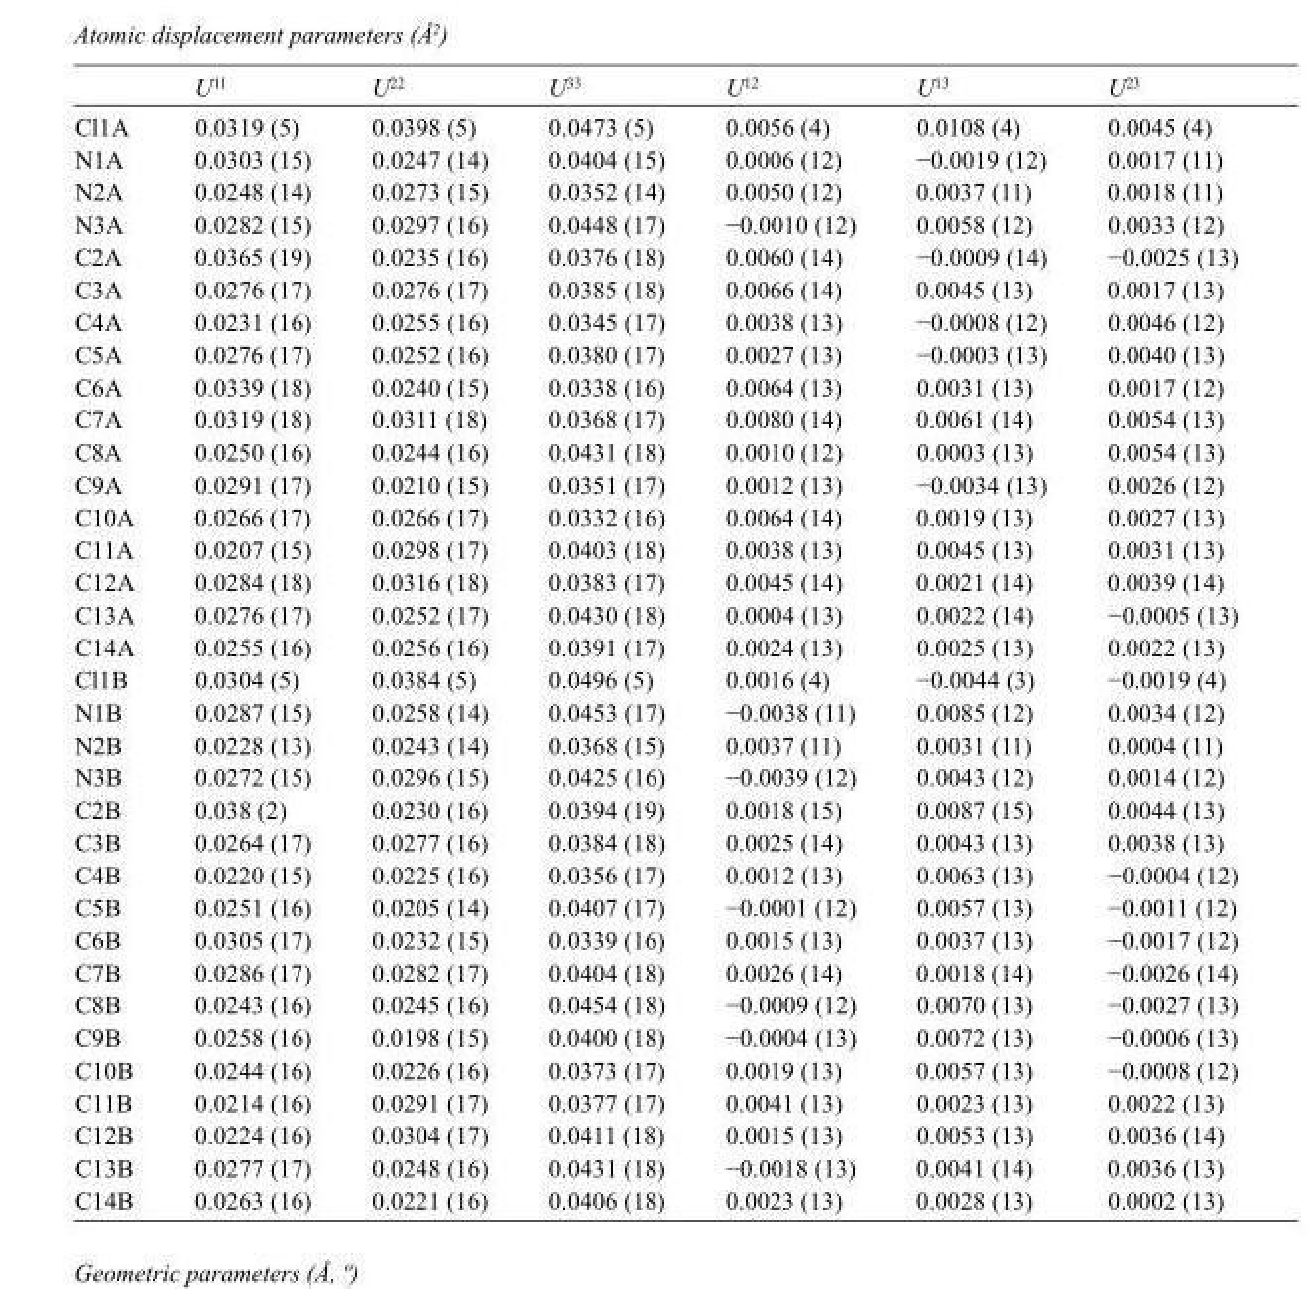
<table><thead><tr><td></td><td>U<sup>11</sup></td><td>U<sup>22</sup></td><td>U<sup>33</sup></td><td>U<sup>12</sup></td><td>U<sup>13</sup></td><td>U<sup>23</sup></td></tr></thead><tbody><tr><td>Cl1A</td><td>0.0319 (5)</td><td>0.0398 (5)</td><td>0.0473 (5)</td><td>0.0056 (4)</td><td>0.0108 (4)</td><td>0.0045 (4)</td></tr><tr><td>N1A</td><td>0.0303 (15)</td><td>0.0247 (14)</td><td>0.0404 (15)</td><td>0.0006 (12)</td><td>−0.0019 (12)</td><td>0.0017 (11)</td></tr><tr><td>N2A</td><td>0.0248 (14)</td><td>0.0273 (15)</td><td>0.0352 (14)</td><td>0.0050 (12)</td><td>0.0037 (11)</td><td>0.0018 (11)</td></tr><tr><td>N3A</td><td>0.0282 (15)</td><td>0.0297 (16)</td><td>0.0448 (17)</td><td>−0.0010 (12)</td><td>0.0058 (12)</td><td>0.0033 (12)</td></tr><tr><td>C2A</td><td>0.0365 (19)</td><td>0.0235 (16)</td><td>0.0376 (18)</td><td>0.0060 (14)</td><td>−0.0009 (14)</td><td>−0.0025 (13)</td></tr><tr><td>C3A</td><td>0.0276 (17)</td><td>0.0276 (17)</td><td>0.0385 (18)</td><td>0.0066 (14)</td><td>0.0045 (13)</td><td>0.0017 (13)</td></tr><tr><td>C4A</td><td>0.0231 (16)</td><td>0.0255 (16)</td><td>0.0345 (17)</td><td>0.0038 (13)</td><td>−0.0008 (12)</td><td>0.0046 (12)</td></tr><tr><td>C5A</td><td>0.0276 (17)</td><td>0.0252 (16)</td><td>0.0380 (17)</td><td>0.0027 (13)</td><td>−0.0003 (13)</td><td>0.0040 (13)</td></tr><tr><td>C6A</td><td>0.0339 (18)</td><td>0.0240 (15)</td><td>0.0338 (16)</td><td>0.0064 (13)</td><td>0.0031 (13)</td><td>0.0017 (12)</td></tr><tr><td>C7A</td><td>0.0319 (18)</td><td>0.0311 (18)</td><td>0.0368 (17)</td><td>0.0080 (14)</td><td>0.0061 (14)</td><td>0.0054 (13)</td></tr><tr><td>C8A</td><td>0.0250 (16)</td><td>0.0244 (16)</td><td>0.0431 (18)</td><td>0.0010 (12)</td><td>0.0003 (13)</td><td>0.0054 (13)</td></tr><tr><td>C9A</td><td>0.0291 (17)</td><td>0.0210 (15)</td><td>0.0351 (17)</td><td>0.0012 (13)</td><td>−0.0034 (13)</td><td>0.0026 (12)</td></tr><tr><td>C10A</td><td>0.0266 (17)</td><td>0.0266 (17)</td><td>0.0332 (16)</td><td>0.0064 (14)</td><td>0.0019 (13)</td><td>0.0027 (13)</td></tr><tr><td>C11A</td><td>0.0207 (15)</td><td>0.0298 (17)</td><td>0.0403 (18)</td><td>0.0038 (13)</td><td>0.0045 (13)</td><td>0.0031 (13)</td></tr><tr><td>C12A</td><td>0.0284 (18)</td><td>0.0316 (18)</td><td>0.0383 (17)</td><td>0.0045 (14)</td><td>0.0021 (14)</td><td>0.0039 (14)</td></tr><tr><td>C13A</td><td>0.0276 (17)</td><td>0.0252 (17)</td><td>0.0430 (18)</td><td>0.0004 (13)</td><td>0.0022 (14)</td><td>−0.0005 (13)</td></tr><tr><td>C14A</td><td>0.0255 (16)</td><td>0.0256 (16)</td><td>0.0391 (17)</td><td>0.0024 (13)</td><td>0.0025 (13)</td><td>0.0022 (13)</td></tr><tr><td>Cl1B</td><td>0.0304 (5)</td><td>0.0384 (5)</td><td>0.0496 (5)</td><td>0.0016 (4)</td><td>−0.0044 (3)</td><td>−0.0019 (4)</td></tr><tr><td>N1B</td><td>0.0287 (15)</td><td>0.0258 (14)</td><td>0.0453 (17)</td><td>−0.0038 (11)</td><td>0.0085 (12)</td><td>0.0034 (12)</td></tr><tr><td>N2B</td><td>0.0228 (13)</td><td>0.0243 (14)</td><td>0.0368 (15)</td><td>0.0037 (11)</td><td>0.0031 (11)</td><td>0.0004 (11)</td></tr><tr><td>N3B</td><td>0.0272 (15)</td><td>0.0296 (15)</td><td>0.0425 (16)</td><td>−0.0039 (12)</td><td>0.0043 (12)</td><td>0.0014 (12)</td></tr><tr><td>C2B</td><td>0.038 (2)</td><td>0.0230 (16)</td><td>0.0394 (19)</td><td>0.0018 (15)</td><td>0.0087 (15)</td><td>0.0044 (13)</td></tr><tr><td>C3B</td><td>0.0264 (17)</td><td>0.0277 (16)</td><td>0.0384 (18)</td><td>0.0025 (14)</td><td>0.0043 (13)</td><td>0.0038 (13)</td></tr><tr><td>C4B</td><td>0.0220 (15)</td><td>0.0225 (16)</td><td>0.0356 (17)</td><td>0.0012 (13)</td><td>0.0063 (13)</td><td>−0.0004 (12)</td></tr><tr><td>C5B</td><td>0.0251 (16)</td><td>0.0205 (14)</td><td>0.0407 (17)</td><td>−0.0001 (12)</td><td>0.0057 (13)</td><td>−0.0011 (12)</td></tr><tr><td>C6B</td><td>0.0305 (17)</td><td>0.0232 (15)</td><td>0.0339 (16)</td><td>0.0015 (13)</td><td>0.0037 (13)</td><td>−0.0017 (12)</td></tr><tr><td>C7B</td><td>0.0286 (17)</td><td>0.0282 (17)</td><td>0.0404 (18)</td><td>0.0026 (14)</td><td>0.0018 (14)</td><td>−0.0026 (14)</td></tr><tr><td>C8B</td><td>0.0243 (16)</td><td>0.0245 (16)</td><td>0.0454 (18)</td><td>−0.0009 (12)</td><td>0.0070 (13)</td><td>−0.0027 (13)</td></tr><tr><td>C9B</td><td>0.0258 (16)</td><td>0.0198 (15)</td><td>0.0400 (18)</td><td>−0.0004 (13)</td><td>0.0072 (13)</td><td>−0.0006 (13)</td></tr><tr><td>C10B</td><td>0.0244 (16)</td><td>0.0226 (16)</td><td>0.0373 (17)</td><td>0.0019 (13)</td><td>0.0057 (13)</td><td>−0.0008 (12)</td></tr><tr><td>C11B</td><td>0.0214 (16)</td><td>0.0291 (17)</td><td>0.0377 (17)</td><td>0.0041 (13)</td><td>0.0023 (13)</td><td>0.0022 (13)</td></tr><tr><td>C12B</td><td>0.0224 (16)</td><td>0.0304 (17)</td><td>0.0411 (18)</td><td>0.0015 (13)</td><td>0.0053 (13)</td><td>0.0036 (14)</td></tr><tr><td>C13B</td><td>0.0277 (17)</td><td>0.0248 (16)</td><td>0.0431 (18)</td><td>−0.0018 (13)</td><td>0.0041 (14)</td><td>0.0036 (13)</td></tr><tr><td>C14B</td><td>0.0263 (16)</td><td>0.0221 (16)</td><td>0.0406 (18)</td><td>0.0023 (13)</td><td>0.0028 (13)</td><td>0.0002 (13)</td></tr></tbody></table>